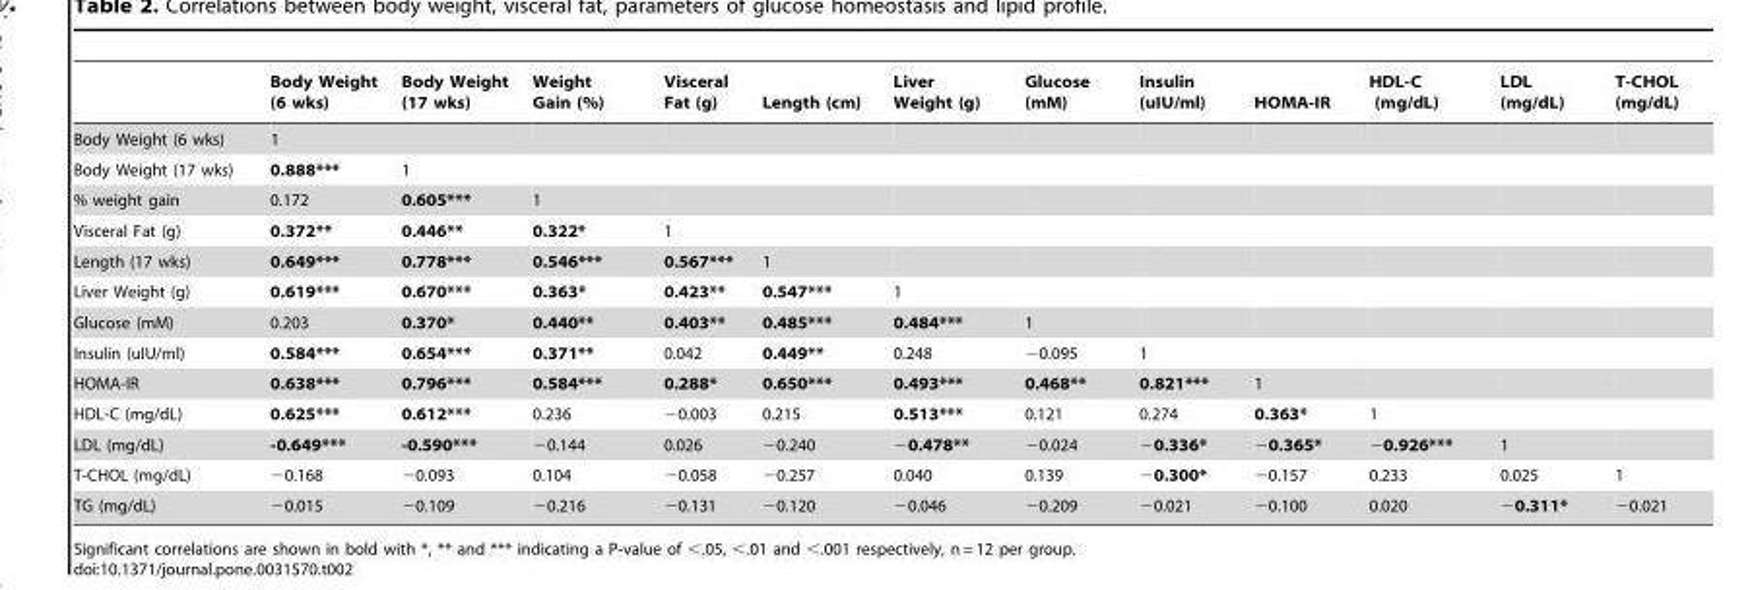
<table><thead><tr><td></td><td>Body Weight (6 wks)</td><td>Body Weight (17 wks)</td><td>Weight Gain (%)</td><td>Visceral Fat (g)</td><td>Length (cm)</td><td>Liver Weight (g)</td><td>Glucose (mM)</td><td>Insulin (uIU/ml)</td><td>HOMA-IR</td><td>HDL-C (mg/dL)</td><td>LDL (mg/dL)</td><td>T-CHOL (mg/dL)</td></tr></thead><tbody><tr><td>Body Weight (6 wks)</td><td>1</td><td></td><td></td><td></td><td></td><td></td><td></td><td></td><td></td><td></td><td></td><td></td></tr><tr><td>Body Weight (17 wks)</td><td>0.888***</td><td>1</td><td></td><td></td><td></td><td></td><td></td><td></td><td></td><td></td><td></td><td></td></tr><tr><td>% weight gain</td><td>0.172</td><td>0.605***</td><td>1</td><td></td><td></td><td></td><td></td><td></td><td></td><td></td><td></td><td></td></tr><tr><td>Visceral Fat (g)</td><td>0.372**</td><td>0.446**</td><td>0.322*</td><td>1</td><td></td><td></td><td></td><td></td><td></td><td></td><td></td><td></td></tr><tr><td>Length (17 wks)</td><td>0.649***</td><td>0.778***</td><td>0.546***</td><td>0.567***</td><td>1</td><td></td><td></td><td></td><td></td><td></td><td></td><td></td></tr><tr><td>Liver Weight (g)</td><td>0.619***</td><td>0.670***</td><td>0.363*</td><td>0.423**</td><td>0.547***</td><td>1</td><td></td><td></td><td></td><td></td><td></td><td></td></tr><tr><td>Glucose (mM)</td><td>0.203</td><td>0.370*</td><td>0.440**</td><td>0.403**</td><td>0.485***</td><td>0.484***</td><td>1</td><td></td><td></td><td></td><td></td><td></td></tr><tr><td>Insulin (uIU/ml)</td><td>0.584***</td><td>0.654***</td><td>0.371**</td><td>0.042</td><td>0.449**</td><td>0.248</td><td>−0.095</td><td>1</td><td></td><td></td><td></td><td></td></tr><tr><td>HOMA-IR</td><td>0.638***</td><td>0.796***</td><td>0.584***</td><td>0.288*</td><td>0.650***</td><td>0.493***</td><td>0.468**</td><td>0.821***</td><td>1</td><td></td><td></td><td></td></tr><tr><td>HDL-C (mg/dL)</td><td>0.625***</td><td>0.612***</td><td>0.236</td><td>−0.003</td><td>0.215</td><td>0.513***</td><td>0.121</td><td>0.274</td><td>0.363*</td><td>1</td><td></td><td></td></tr><tr><td>LDL (mg/dL)</td><td>-0.649***</td><td>-0.590***</td><td>−0.144</td><td>0.026</td><td>−0.240</td><td>−0.478**</td><td>−0.024</td><td>−0.336*</td><td>−0.365*</td><td>−0.926***</td><td>1</td><td></td></tr><tr><td>T-CHOL (mg/dL)</td><td>−0.168</td><td>−0.093</td><td>0.104</td><td>−0.058</td><td>−0.257</td><td>0.040</td><td>0.139</td><td>−0.300*</td><td>−0.157</td><td>0.233</td><td>0.025</td><td>1</td></tr><tr><td>TG (mg/dL)</td><td>−0.015</td><td>−0.109</td><td>−0.216</td><td>−0.131</td><td>−0.120</td><td>−0.046</td><td>−0.209</td><td>−0.021</td><td>−0.100</td><td>0.020</td><td>−0.311*</td><td>−0.021</td></tr></tbody></table>